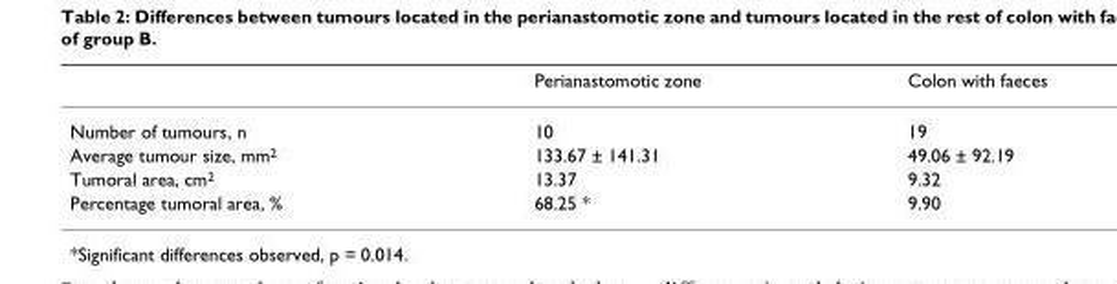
<table><thead><tr><td></td><td>Perianastomotic zone</td><td>Colon with faeces</td></tr></thead><tbody><tr><td>Number of tumours, n</td><td>10</td><td>19</td></tr><tr><td>Average tumour size, mm<sup>2</sup></td><td>133.67 ± 141.31</td><td>49.06 ± 92.19</td></tr><tr><td>Tumoral area, cm<sup>2</sup></td><td>13.37</td><td>9.32</td></tr><tr><td>Percentage tumoral area, %</td><td>68.25 *</td><td>9.90</td></tr></tbody></table>